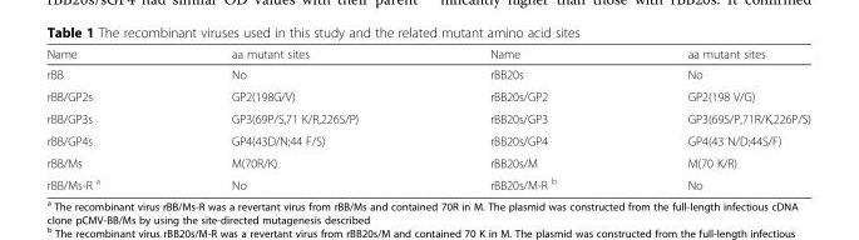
<table><thead><tr><td>Name</td><td>aa mutant sites</td><td>Name</td><td>aa mutant sites</td></tr></thead><tbody><tr><td>rBB</td><td>No</td><td>rBB20s</td><td>No</td></tr><tr><td>rBB/GP2s</td><td>GP2(198G/V)</td><td>rBB20s/GP2</td><td>GP2(198 V/G)</td></tr><tr><td>rBB/GP3s</td><td>GP3(69P/S,71 K/R,226S/P)</td><td>rBB20s/GP3</td><td>GP3(69S/P,71R/K,226P/S)</td></tr><tr><td>rBB/GP4s</td><td>GP4(43D/N;44 F/S)</td><td>rBB20s/GP4</td><td>GP4(43 N/D;44S/F)</td></tr><tr><td>rBB/Ms</td><td>M(70R/K)</td><td>rBB20s/M</td><td>M(70 K/R)</td></tr><tr><td>rBB/Ms-R <sup>a</sup></td><td>No</td><td>rBB20s/M-R <sup>b</sup></td><td>No</td></tr></tbody></table>